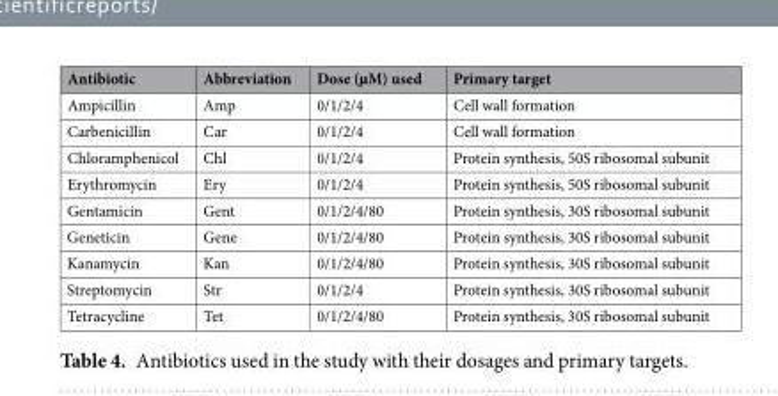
<table><thead><tr><td>Antibiotic</td><td>Abbreviation</td><td>Dose (µM) used</td><td>Primary target</td></tr></thead><tbody><tr><td>Ampicillin</td><td>Amp</td><td>0/1/2/4</td><td>Cell wall formation</td></tr><tr><td>Carbenicillin</td><td>Car</td><td>0/1/2/4</td><td>Cell wall formation</td></tr><tr><td>Chloramphenicol</td><td>Chl</td><td>0/1/2/4</td><td>Protein synthesis, 50S ribosomal subunit</td></tr><tr><td>Erythromycin</td><td>Ery</td><td>0/1/2/4</td><td>Protein synthesis, 50S ribosomal subunit</td></tr><tr><td>Gentamicin</td><td>Gent</td><td>0/1/2/4/80</td><td>Protein synthesis, 30S ribosomal subunit</td></tr><tr><td>Geneticin</td><td>Gene</td><td>0/1/2/4/80</td><td>Protein synthesis, 30S ribosomal subunit</td></tr><tr><td>Kanamycin</td><td>Kan</td><td>0/1/2/4/80</td><td>Protein synthesis, 30S ribosomal subunit</td></tr><tr><td>Streptomycin</td><td>Str</td><td>0/1/2/4</td><td>Protein synthesis, 30S ribosomal subunit</td></tr><tr><td>Tetracycline</td><td>Tet</td><td>0/1/2/4/80</td><td>Protein synthesis, 30S ribosomal subunit</td></tr></tbody></table>